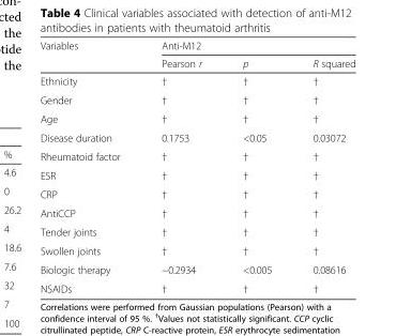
<table><thead><tr><td rowspan="2">Variables</td><td colspan="3">Anti-M12</td></tr><tr><td>Pearson r</td><td>p</td><td>R squared</td></tr></thead><tbody><tr><td>Ethnicity</td><td>†</td><td>†</td><td>†</td></tr><tr><td>Gender</td><td>†</td><td>†</td><td>†</td></tr><tr><td>Age</td><td>†</td><td>†</td><td>†</td></tr><tr><td>Disease duration</td><td>0.1753</td><td>&lt;0.05</td><td>0.03072</td></tr><tr><td>Rheumatoid factor</td><td>†</td><td>†</td><td>†</td></tr><tr><td>ESR</td><td>†</td><td>†</td><td>†</td></tr><tr><td>CRP</td><td>†</td><td>†</td><td>†</td></tr><tr><td>AntiCCP</td><td>†</td><td>†</td><td>†</td></tr><tr><td>Tender joints</td><td>†</td><td>†</td><td>†</td></tr><tr><td>Swollen joints</td><td>†</td><td>†</td><td>†</td></tr><tr><td>Biologic therapy</td><td>−0.2934</td><td>&lt;0.005</td><td>0.08616</td></tr><tr><td>NSAIDs</td><td>†</td><td>†</td><td>†</td></tr></tbody></table>